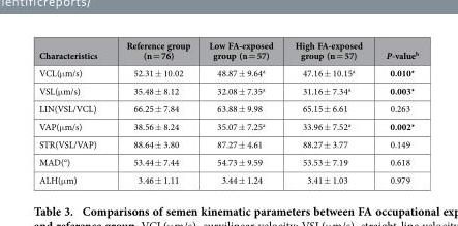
<table><thead><tr><td>Characteristics</td><td>Reference group (n = 76)</td><td>Low FA-exposed group (n = 57)</td><td>High FA-exposed group (n = 57)</td><td>P-value<sup>b</sup></td></tr></thead><tbody><tr><td>VCL(μ m/s)</td><td>52.31 ± 10.02</td><td>48.87 ± 9.64<sup>a</sup></td><td>47.16 ± 10.15<sup>a</sup></td><td>0.010*</td></tr><tr><td>VSL(μ m/s)</td><td>35.48 ± 8.12</td><td>32.08 ± 7.35<sup>a</sup></td><td>31.16 ± 7.34<sup>a</sup></td><td>0.003*</td></tr><tr><td>LIN(VSL/VCL)</td><td>66.25 ± 7.84</td><td>63.88 ± 9.98</td><td>65.15 ± 6.61</td><td>0.263</td></tr><tr><td>VAP(μ m/s)</td><td>38.56 ± 8.24</td><td>35.07 ± 7.25<sup>a</sup></td><td>33.96 ± 7.52<sup>a</sup></td><td>0.002*</td></tr><tr><td>STR(VSL/VAP)</td><td>88.64 ± 3.80</td><td>87.27 ± 4.61</td><td>88.27 ± 3.77</td><td>0.149</td></tr><tr><td>MAD(°)</td><td>53.44 ± 7.44</td><td>54.73 ± 9.59</td><td>53.53 ± 7.19</td><td>0.618</td></tr><tr><td>ALH(μ m)</td><td>3.46 ± 1.11</td><td>3.44 ± 1.24</td><td>3.41 ± 1.03</td><td>0.979</td></tr></tbody></table>